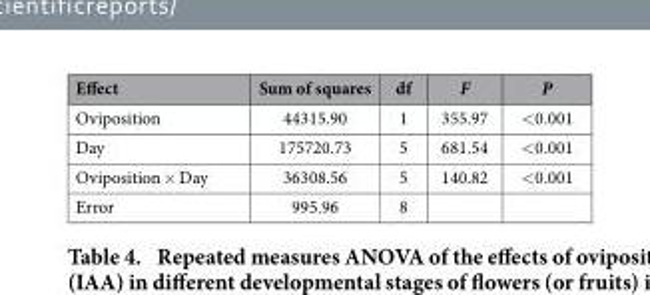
<table><thead><tr><td>Effect</td><td>Sum of squares</td><td>df</td><td>F</td><td>P</td></tr></thead><tbody><tr><td>Oviposition</td><td>44315.90</td><td>1</td><td>355.97</td><td>&lt; 0.001</td></tr><tr><td>Day</td><td>175720.73</td><td>5</td><td>681.54</td><td>&lt; 0.001</td></tr><tr><td>Oviposition × Day</td><td>36308.56</td><td>5</td><td>140.82</td><td>&lt; 0.001</td></tr><tr><td>Error</td><td>995.96</td><td>8</td><td></td><td></td></tr></tbody></table>